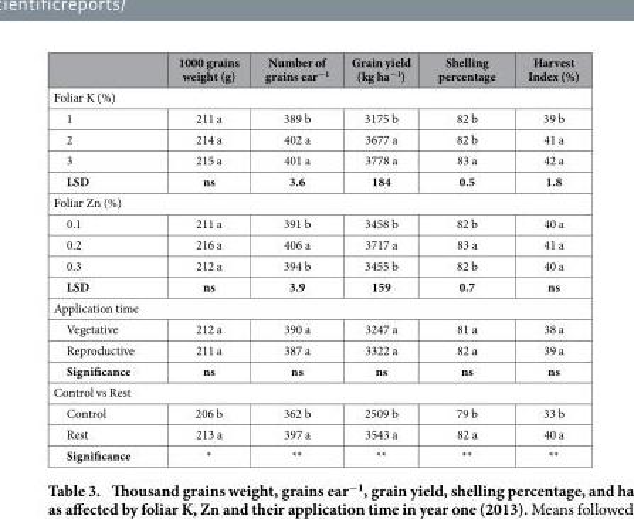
<table><thead><tr><td></td><td>1000 grains weight (g)</td><td>Number of grains ear<sup>−1</sup></td><td>Grain yield (kg ha<sup>−1</sup>)</td><td>Shelling percentage</td><td>Harvest Index (%)</td></tr></thead><tbody><tr><td colspan="6">Foliar K (%)</td></tr><tr><td>1</td><td>211 a</td><td>389 b</td><td>3175 b</td><td>82 b</td><td>39 b</td></tr><tr><td>2</td><td>214 a</td><td>402 a</td><td>3677 a</td><td>82 b</td><td>41 a</td></tr><tr><td>3</td><td>215 a</td><td>401 a</td><td>3778 a</td><td>83 a</td><td>42 a</td></tr><tr><td>LSD</td><td>ns</td><td>3.6</td><td>184</td><td>0.5</td><td>1.8</td></tr><tr><td colspan="6">Foliar Zn (%)</td></tr><tr><td>0.1</td><td>211 a</td><td>391 b</td><td>3458 b</td><td>82 b</td><td>40 a</td></tr><tr><td>0.2</td><td>216 a</td><td>406 a</td><td>3717 a</td><td>83 a</td><td>41 a</td></tr><tr><td>0.3</td><td>212 a</td><td>394 b</td><td>3455 b</td><td>82 b</td><td>40 a</td></tr><tr><td>LSD</td><td>ns</td><td>3.9</td><td>159</td><td>0.7</td><td>ns</td></tr><tr><td colspan="6">Application time</td></tr><tr><td>Vegetative</td><td>212 a</td><td>390 a</td><td>3247 a</td><td>81 a</td><td>38 a</td></tr><tr><td>Reproductive</td><td>211 a</td><td>387 a</td><td>3322 a</td><td>82 a</td><td>39 a</td></tr><tr><td>Significance</td><td>ns</td><td>ns</td><td>ns</td><td>ns</td><td>ns</td></tr><tr><td colspan="6">Control vs Rest</td></tr><tr><td>Control</td><td>206 b</td><td>362 b</td><td>2509 b</td><td>79 b</td><td>33 b</td></tr><tr><td>Rest</td><td>213 a</td><td>397 a</td><td>3543 a</td><td>82 a</td><td>40 a</td></tr><tr><td>Significance</td><td>*</td><td>**</td><td>**</td><td>**</td><td>**</td></tr></tbody></table>